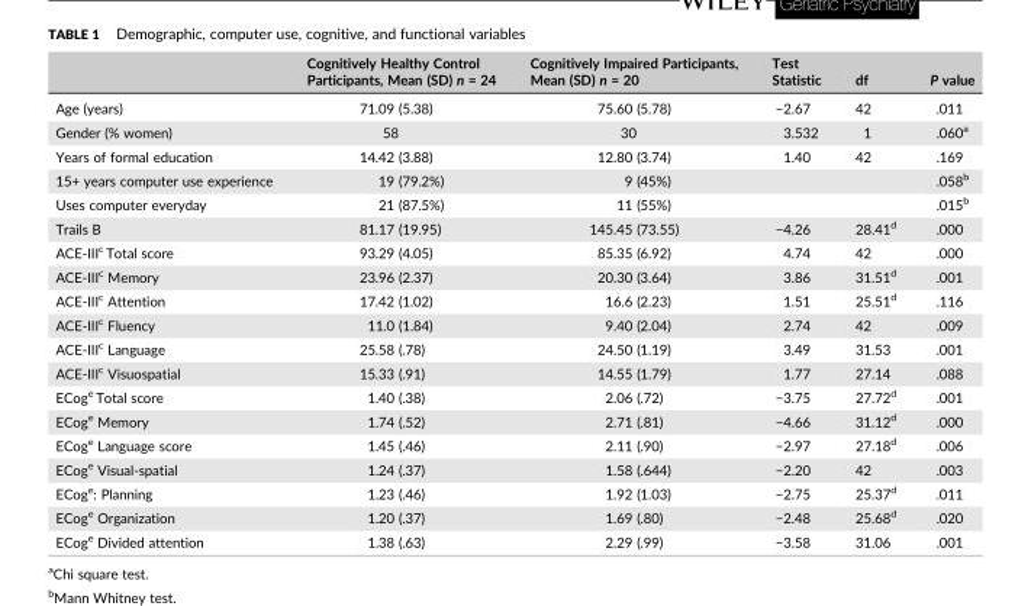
<table><thead><tr><td></td><td>Cognitively Healthy Control Participants, Mean (SD) n = 24</td><td>Cognitively Impaired Participants, Mean (SD) n = 20</td><td>Test Statistic</td><td>df</td><td>P value</td></tr></thead><tbody><tr><td>Age (years)</td><td>71.09 (5.38)</td><td>75.60 (5.78)</td><td>−2.67</td><td>42</td><td>.011</td></tr><tr><td>Gender (% women)</td><td>58</td><td>30</td><td>3.532</td><td>1</td><td>.060<sup>a</sup></td></tr><tr><td>Years of formal education</td><td>14.42 (3.88)</td><td>12.80 (3.74)</td><td>1.40</td><td>42</td><td>.169</td></tr><tr><td>15+ years computer use experience</td><td>19 (79.2%)</td><td>9 (45%)</td><td></td><td></td><td>.058<sup>b</sup></td></tr><tr><td>Uses computer everyday</td><td>21 (87.5%)</td><td>11 (55%)</td><td></td><td></td><td>.015<sup>b</sup></td></tr><tr><td>Trails B</td><td>81.17 (19.95)</td><td>145.45 (73.55)</td><td>−4.26</td><td>28.41<sup>d</sup></td><td>.000</td></tr><tr><td>ACE‐III<sup>c</sup> Total score</td><td>93.29 (4.05)</td><td>85.35 (6.92)</td><td>4.74</td><td>42</td><td>.000</td></tr><tr><td>ACE‐III<sup>c</sup> Memory</td><td>23.96 (2.37)</td><td>20.30 (3.64)</td><td>3.86</td><td>31.51<sup>d</sup></td><td>.001</td></tr><tr><td>ACE‐III<sup>c</sup> Attention</td><td>17.42 (1.02)</td><td>16.6 (2.23)</td><td>1.51</td><td>25.51<sup>d</sup></td><td>.116</td></tr><tr><td>ACE‐III<sup>c</sup> Fluency</td><td>11.0 (1.84)</td><td>9.40 (2.04)</td><td>2.74</td><td>42</td><td>.009</td></tr><tr><td>ACE‐III<sup>c</sup> Language</td><td>25.58 (.78)</td><td>24.50 (1.19)</td><td>3.49</td><td>31.53</td><td>.001</td></tr><tr><td>ACE‐III<sup>c</sup> Visuospatial</td><td>15.33 (.91)</td><td>14.55 (1.79)</td><td>1.77</td><td>27.14</td><td>.088</td></tr><tr><td>ECog<sup>e</sup> Total score</td><td>1.40 (.38)</td><td>2.06 (.72)</td><td>−3.75</td><td>27.72<sup>d</sup></td><td>.001</td></tr><tr><td>ECog<sup>e</sup> Memory</td><td>1.74 (.52)</td><td>2.71 (.81)</td><td>−4.66</td><td>31.12<sup>d</sup></td><td>.000</td></tr><tr><td>ECog<sup>e</sup> Language score</td><td>1.45 (.46)</td><td>2.11 (.90)</td><td>−2.97</td><td>27.18<sup>d</sup></td><td>.006</td></tr><tr><td>ECog<sup>e</sup> Visual‐spatial</td><td>1.24 (.37)</td><td>1.58 (.644)</td><td>−2.20</td><td>42</td><td>.003</td></tr><tr><td>ECog<sup>e</sup>: Planning</td><td>1.23 (.46)</td><td>1.92 (1.03)</td><td>−2.75</td><td>25.37<sup>d</sup></td><td>.011</td></tr><tr><td>ECog<sup>e</sup> Organization</td><td>1.20 (.37)</td><td>1.69 (.80)</td><td>−2.48</td><td>25.68<sup>d</sup></td><td>.020</td></tr><tr><td>ECog<sup>e</sup> Divided attention</td><td>1.38 (.63)</td><td>2.29 (.99)</td><td>−3.58</td><td>31.06</td><td>.001</td></tr></tbody></table>